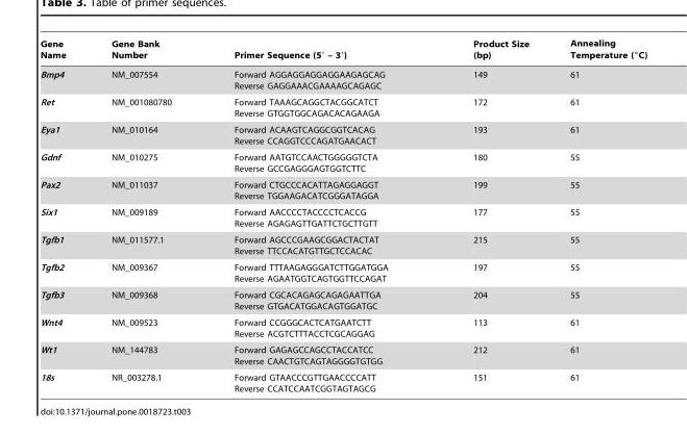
<table><thead><tr><td>Gene Name</td><td>Gene Bank Number</td><td>Primer Sequence (5′ – 3′)</td><td>Product Size (bp)</td><td>Annealing Temperature (°C)</td></tr></thead><tbody><tr><td>Bmp4</td><td>NM_007554</td><td>Forward AGGAGGAGGAGGAAGAGCAG Reverse GAGGAAACGAAAAGCAGAGC</td><td>149</td><td>61</td></tr><tr><td>Ret</td><td>NM_001080780</td><td>Forward TAAAGCAGGCTACGGCATCT Reverse GTGGTGGCAGACACAGAAGA</td><td>172</td><td>61</td></tr><tr><td>Eya1</td><td>NM_010164</td><td>Forward ACAAGTCAGGCGGTCACAG Reverse CCAGGTCCCAGATGAACACT</td><td>193</td><td>61</td></tr><tr><td>Gdnf</td><td>NM_010275</td><td>Forward AATGTCCAACTGGGGGTCTA Reverse GCCGAGGGAGTGGTCTTC</td><td>180</td><td>55</td></tr><tr><td>Pax2</td><td>NM_011037</td><td>Forward CTGCCCACATTAGAGGAGGT Reverse TGGAAGACATCGGGATAGGA</td><td>199</td><td>55</td></tr><tr><td>Six1</td><td>NM_009189</td><td>Forward AACCCCTACCCCTCACCG Reverse AGAGAGTTGATTCTGCTTGTT</td><td>177</td><td>55</td></tr><tr><td>Tgfb1</td><td>NM_011577.1</td><td>Forward AGCCCGAAGCGGACTACTAT Reverse TTCCACATGTTGCTCCACAC</td><td>215</td><td>55</td></tr><tr><td>Tgfb2</td><td>NM_009367</td><td>Forward TTTAAGAGGGATCTTGGATGGA Reverse AGAATGGTCAGTGGTTCCAGAT</td><td>197</td><td>55</td></tr><tr><td>Tgfb3</td><td>NM_009368</td><td>Forward CGCACAGAGCAGAGAATTGA Reverse GTGACATGGACAGTGGATGC</td><td>204</td><td>55</td></tr><tr><td>Wnt4</td><td>NM_009523</td><td>Forward CCGGGCACTCATGAATCTT Reverse ACGTCTTTACCTCGCAGGAG</td><td>113</td><td>61</td></tr><tr><td>Wt1</td><td>NM_144783</td><td>Forward GAGAGCCAGCCTACCATCC Reverse CAACTGTCAGTAGGGGTGTGG</td><td>212</td><td>61</td></tr><tr><td>18s</td><td>NR_003278.1</td><td>Forward GTAACCCGTTGAACCCCATT Reverse CCATCCAATCGGTAGTAGCG</td><td>151</td><td>61</td></tr></tbody></table>